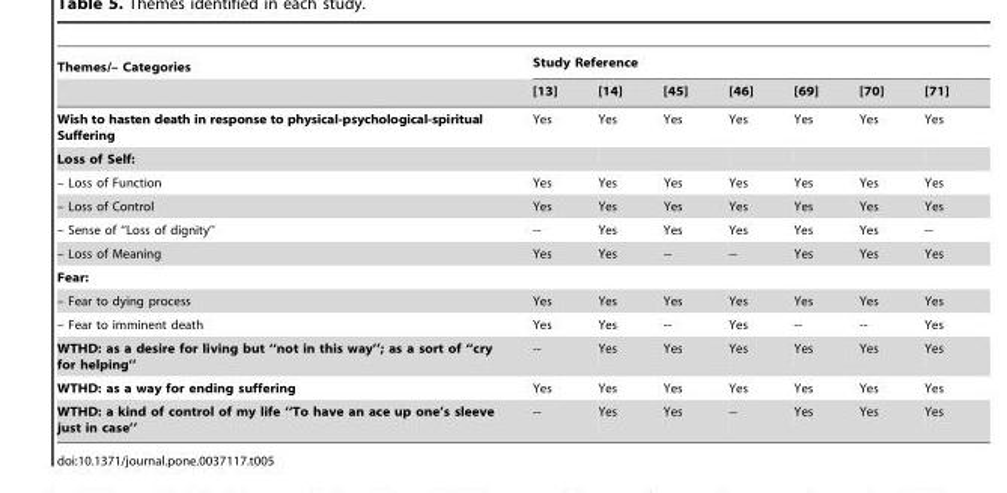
<table><thead><tr><td rowspan="2">Themes/– Categories</td><td colspan="7">Study Reference</td></tr><tr><td>[13]</td><td>[14]</td><td>[45]</td><td>[46]</td><td>[69]</td><td>[70]</td><td>[71]</td></tr></thead><tbody><tr><td>Wish to hasten death in response to physical-psychological-spiritual Suffering</td><td>Yes</td><td>Yes</td><td>Yes</td><td>Yes</td><td>Yes</td><td>Yes</td><td>Yes</td></tr><tr><td colspan="8">Loss of Self:</td></tr><tr><td>– Loss of Function</td><td>Yes</td><td>Yes</td><td>Yes</td><td>Yes</td><td>Yes</td><td>Yes</td><td>Yes</td></tr><tr><td>– Loss of Control</td><td>Yes</td><td>Yes</td><td>Yes</td><td>Yes</td><td>Yes</td><td>Yes</td><td>Yes</td></tr><tr><td>– Sense of ‘‘Loss of dignity’’</td><td>--</td><td>Yes</td><td>Yes</td><td>Yes</td><td>Yes</td><td>Yes</td><td>--</td></tr><tr><td>– Loss of Meaning</td><td>Yes</td><td>Yes</td><td>--</td><td>--</td><td>Yes</td><td>Yes</td><td>Yes</td></tr><tr><td colspan="8">Fear:</td></tr><tr><td>– Fear to dying process</td><td>Yes</td><td>Yes</td><td>Yes</td><td>Yes</td><td>Yes</td><td>Yes</td><td>Yes</td></tr><tr><td>– Fear to imminent death</td><td>Yes</td><td>Yes</td><td>--</td><td>Yes</td><td>--</td><td>--</td><td>Yes</td></tr><tr><td>WTHD: as a desire for living but ‘‘not in this way’’; as a sort of ‘‘cry for helping’’</td><td>--</td><td>Yes</td><td>Yes</td><td>Yes</td><td>Yes</td><td>Yes</td><td>Yes</td></tr><tr><td>WTHD: as a way for ending suffering</td><td>Yes</td><td>Yes</td><td>Yes</td><td>Yes</td><td>Yes</td><td>Yes</td><td>Yes</td></tr><tr><td>WTHD: a kind of control of my life ‘‘To have an ace up one’s sleeve just in case’’</td><td>--</td><td>Yes</td><td>Yes</td><td>--</td><td>Yes</td><td>Yes</td><td>Yes</td></tr></tbody></table>